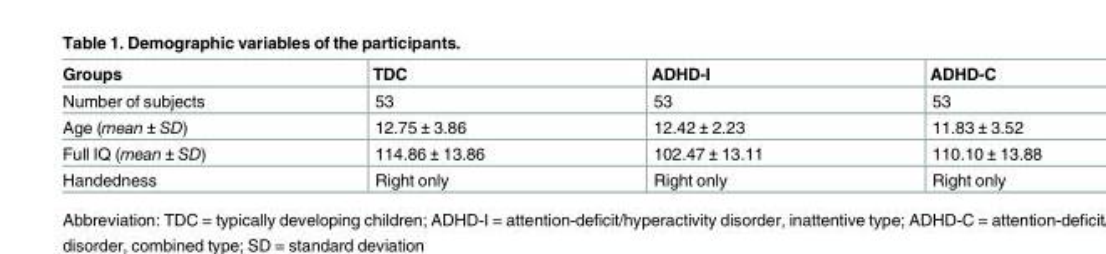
<table><thead><tr><td>Groups</td><td>TDC</td><td>ADHD-I</td><td>ADHD-C</td></tr></thead><tbody><tr><td>Number of subjects</td><td>53</td><td>53</td><td>53</td></tr><tr><td>Age (mean ± SD)</td><td>12.75 ± 3.86</td><td>12.42 ± 2.23</td><td>11.83 ± 3.52</td></tr><tr><td>Full IQ (mean ± SD)</td><td>114.86 ± 13.86</td><td>102.47 ± 13.11</td><td>110.10 ± 13.88</td></tr><tr><td>Handedness</td><td>Right only</td><td>Right only</td><td>Right only</td></tr></tbody></table>